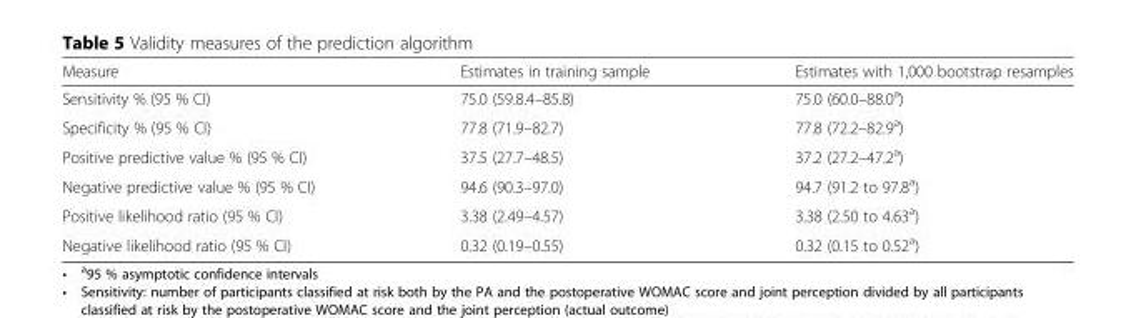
<table><thead><tr><td>Measure</td><td>Estimates in training sample</td><td>Estimates with 1,000 bootstrap resamples</td></tr></thead><tbody><tr><td>Sensitivity % (95 % CI)</td><td>75.0 (59.8.4–85.8)</td><td>75.0 (60.0–88.0<sup>a</sup>)</td></tr><tr><td>Specificity % (95 % CI)</td><td>77.8 (71.9–82.7)</td><td>77.8 (72.2–82.9<sup>a</sup>)</td></tr><tr><td>Positive predictive value % (95 % CI)</td><td>37.5 (27.7–48.5)</td><td>37.2 (27.2–47.2<sup>a</sup>)</td></tr><tr><td>Negative predictive value % (95 % CI)</td><td>94.6 (90.3–97.0)</td><td>94.7 (91.2 to 97.8<sup>a</sup>)</td></tr><tr><td>Positive likelihood ratio (95 % CI)</td><td>3.38 (2.49–4.57)</td><td>3.38 (2.50 to 4.63<sup>a</sup>)</td></tr><tr><td>Negative likelihood ratio (95 % CI)</td><td>0.32 (0.19–0.55)</td><td>0.32 (0.15 to 0.52<sup>a</sup>)</td></tr></tbody></table>